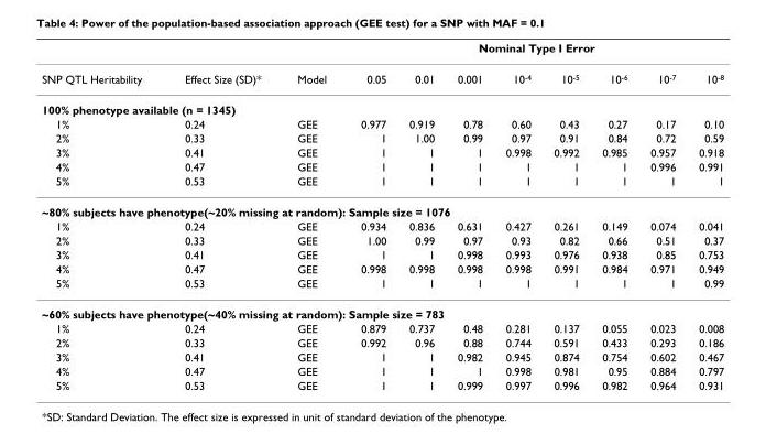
<table><thead><tr><td rowspan="2">SNP QTL Heritability</td><td rowspan="2">Effect Size (SD)*</td><td rowspan="2">Model</td><td colspan="8">Nominal Type I Error</td></tr><tr><td>0.05</td><td>0.01</td><td>0.001</td><td>10<sup>-4</sup></td><td>10<sup>-5</sup></td><td>10<sup>-6</sup></td><td>10<sup>-7</sup></td><td>10<sup>-8</sup></td></tr></thead><tbody><tr><td colspan="11">100% phenotype available (n = 1345)</td></tr><tr><td>1%</td><td>0.24</td><td>GEE</td><td>0.977</td><td>0.919</td><td>0.78</td><td>0.60</td><td>0.43</td><td>0.27</td><td>0.17</td><td>0.10</td></tr><tr><td>2%</td><td>0.33</td><td>GEE</td><td>1</td><td>1.00</td><td>0.99</td><td>0.97</td><td>0.91</td><td>0.84</td><td>0.72</td><td>0.59</td></tr><tr><td>3%</td><td>0.41</td><td>GEE</td><td>1</td><td>1</td><td>1</td><td>0.998</td><td>0.992</td><td>0.985</td><td>0.957</td><td>0.918</td></tr><tr><td>4%</td><td>0.47</td><td>GEE</td><td>1</td><td>1</td><td>1</td><td>1</td><td>1</td><td>1</td><td>0.996</td><td>0.991</td></tr><tr><td>5%</td><td>0.53</td><td>GEE</td><td>1</td><td>1</td><td>1</td><td>1</td><td>1</td><td>1</td><td>1</td><td>1</td></tr><tr><td colspan="11">~80% subjects have phenotype(~20% missing at random): Sample size = 1076</td></tr><tr><td>1%</td><td>0.24</td><td>GEE</td><td>0.934</td><td>0.836</td><td>0.631</td><td>0.427</td><td>0.261</td><td>0.149</td><td>0.074</td><td>0.041</td></tr><tr><td>2%</td><td>0.33</td><td>GEE</td><td>1.00</td><td>0.99</td><td>0.97</td><td>0.93</td><td>0.82</td><td>0.66</td><td>0.51</td><td>0.37</td></tr><tr><td>3%</td><td>0.41</td><td>GEE</td><td>1</td><td>1</td><td>0.998</td><td>0.993</td><td>0.976</td><td>0.938</td><td>0.85</td><td>0.753</td></tr><tr><td>4%</td><td>0.47</td><td>GEE</td><td>0.998</td><td>0.998</td><td>0.998</td><td>0.998</td><td>0.991</td><td>0.984</td><td>0.971</td><td>0.949</td></tr><tr><td>5%</td><td>0.53</td><td>GEE</td><td>1</td><td>1</td><td>1</td><td>1</td><td>1</td><td>1</td><td>1</td><td>0.99</td></tr><tr><td colspan="11">~60% subjects have phenotype(~40% missing at random): Sample size = 783</td></tr><tr><td>1%</td><td>0.24</td><td>GEE</td><td>0.879</td><td>0.737</td><td>0.48</td><td>0.281</td><td>0.137</td><td>0.055</td><td>0.023</td><td>0.008</td></tr><tr><td>2%</td><td>0.33</td><td>GEE</td><td>0.992</td><td>0.96</td><td>0.88</td><td>0.744</td><td>0.591</td><td>0.433</td><td>0.293</td><td>0.186</td></tr><tr><td>3%</td><td>0.41</td><td>GEE</td><td>1</td><td>1</td><td>0.982</td><td>0.945</td><td>0.874</td><td>0.754</td><td>0.602</td><td>0.467</td></tr><tr><td>4%</td><td>0.47</td><td>GEE</td><td>1</td><td>1</td><td>1</td><td>0.998</td><td>0.981</td><td>0.95</td><td>0.884</td><td>0.797</td></tr><tr><td>5%</td><td>0.53</td><td>GEE</td><td>1</td><td>1</td><td>0.999</td><td>0.997</td><td>0.996</td><td>0.982</td><td>0.964</td><td>0.931</td></tr></tbody></table>